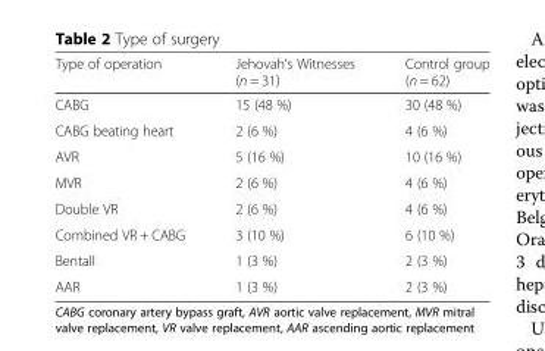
<table><thead><tr><td>Type of operation</td><td>Jehovah’s Witnesses (n = 31)</td><td>Control group (n = 62)</td></tr></thead><tbody><tr><td>CABG</td><td>15 (48 %)</td><td>30 (48 %)</td></tr><tr><td>CABG beating heart</td><td>2 (6 %)</td><td>4 (6 %)</td></tr><tr><td>AVR</td><td>5 (16 %)</td><td>10 (16 %)</td></tr><tr><td>MVR</td><td>2 (6 %)</td><td>4 (6 %)</td></tr><tr><td>Double VR</td><td>2 (6 %)</td><td>4 (6 %)</td></tr><tr><td>Combined VR + CABG</td><td>3 (10 %)</td><td>6 (10 %)</td></tr><tr><td>Bentall</td><td>1 (3 %)</td><td>2 (3 %)</td></tr><tr><td>AAR</td><td>1 (3 %)</td><td>2 (3 %)</td></tr></tbody></table>